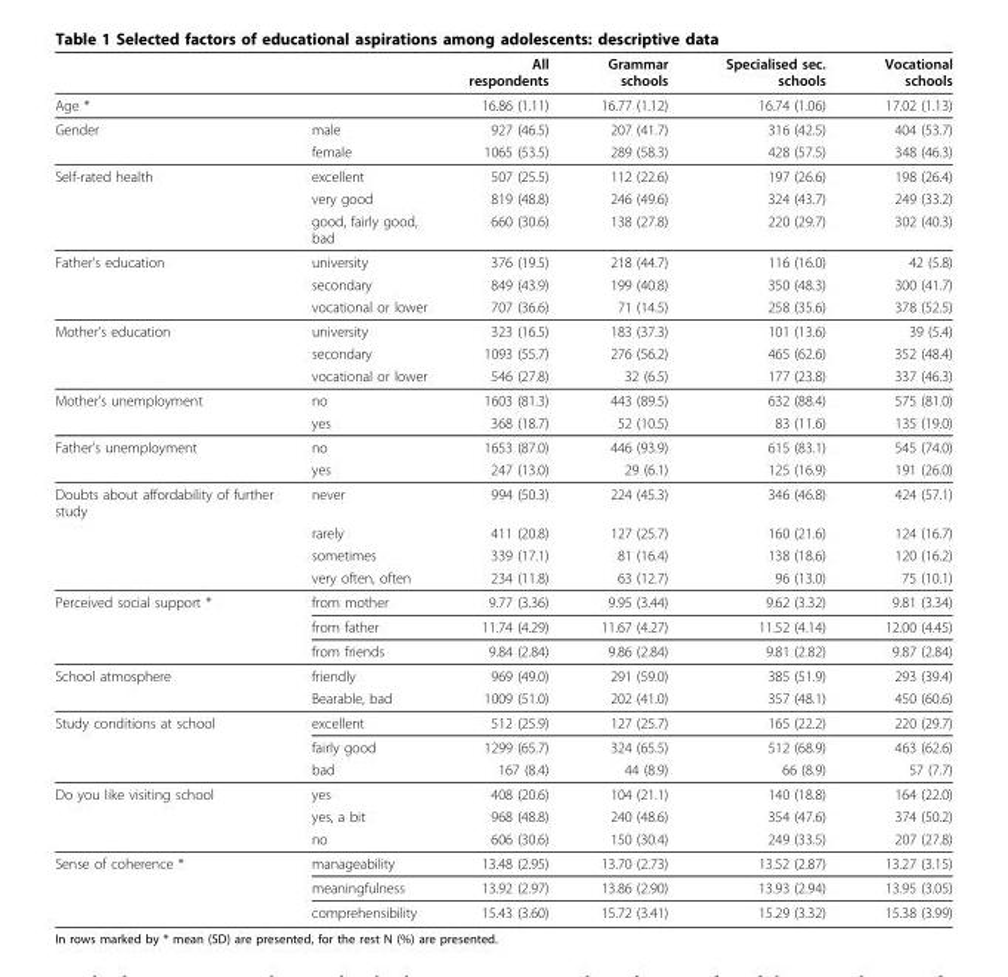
<table><thead><tr><td></td><td></td><td>All respondents</td><td>Grammar schools</td><td>Specialised sec. schools</td><td>Vocational schools</td></tr></thead><tbody><tr><td>Age *</td><td></td><td>16.86 (1.11)</td><td>16.77 (1.12)</td><td>16.74 (1.06)</td><td>17.02 (1.13)</td></tr><tr><td rowspan="2">Gender</td><td>male</td><td>927 (46.5)</td><td>207 (41.7)</td><td>316 (42.5)</td><td>404 (53.7)</td></tr><tr><td>female</td><td>1065 (53.5)</td><td>289 (58.3)</td><td>428 (57.5)</td><td>348 (46.3)</td></tr><tr><td rowspan="3">Self-rated health</td><td>excellent</td><td>507 (25.5)</td><td>112 (22.6)</td><td>197 (26.6)</td><td>198 (26.4)</td></tr><tr><td>very good</td><td>819 (48.8)</td><td>246 (49.6)</td><td>324 (43.7)</td><td>249 (33.2)</td></tr><tr><td>good, fairly good, bad</td><td>660 (30.6)</td><td>138 (27.8)</td><td>220 (29.7)</td><td>302 (40.3)</td></tr><tr><td rowspan="3">Father’s education</td><td>university</td><td>376 (19.5)</td><td>218 (44.7)</td><td>116 (16.0)</td><td>42 (5.8)</td></tr><tr><td>secondary</td><td>849 (43.9)</td><td>199 (40.8)</td><td>350 (48.3)</td><td>300 (41.7)</td></tr><tr><td>vocational or lower</td><td>707 (36.6)</td><td>71 (14.5)</td><td>258 (35.6)</td><td>378 (52.5)</td></tr><tr><td rowspan="3">Mother’s education</td><td>university</td><td>323 (16.5)</td><td>183 (37.3)</td><td>101 (13.6)</td><td>39 (5.4)</td></tr><tr><td>secondary</td><td>1093 (55.7)</td><td>276 (56.2)</td><td>465 (62.6)</td><td>352 (48.4)</td></tr><tr><td>vocational or lower</td><td>546 (27.8)</td><td>32 (6.5)</td><td>177 (23.8)</td><td>337 (46.3)</td></tr><tr><td rowspan="2">Mother’s unemployment</td><td>no</td><td>1603 (81.3)</td><td>443 (89.5)</td><td>632 (88.4)</td><td>575 (81.0)</td></tr><tr><td>yes</td><td>368 (18.7)</td><td>52 (10.5)</td><td>83 (11.6)</td><td>135 (19.0)</td></tr><tr><td rowspan="2">Father’s unemployment</td><td>no</td><td>1653 (87.0)</td><td>446 (93.9)</td><td>615 (83.1)</td><td>545 (74.0)</td></tr><tr><td>yes</td><td>247 (13.0)</td><td>29 (6.1)</td><td>125 (16.9)</td><td>191 (26.0)</td></tr><tr><td rowspan="4">Doubts about affordability of further study</td><td>never</td><td>994 (50.3)</td><td>224 (45.3)</td><td>346 (46.8)</td><td>424 (57.1)</td></tr><tr><td>rarely</td><td>411 (20.8)</td><td>127 (25.7)</td><td>160 (21.6)</td><td>124 (16.7)</td></tr><tr><td>sometimes</td><td>339 (17.1)</td><td>81 (16.4)</td><td>138 (18.6)</td><td>120 (16.2)</td></tr><tr><td>very often, often</td><td>234 (11.8)</td><td>63 (12.7)</td><td>96 (13.0)</td><td>75 (10.1)</td></tr><tr><td rowspan="3">Perceived social support *</td><td>from mother</td><td>9.77 (3.36)</td><td>9.95 (3.44)</td><td>9.62 (3.32)</td><td>9.81 (3.34)</td></tr><tr><td>from father</td><td>11.74 (4.29)</td><td>11.67 (4.27)</td><td>11.52 (4.14)</td><td>12.00 (4.45)</td></tr><tr><td>from friends</td><td>9.84 (2.84)</td><td>9.86 (2.84)</td><td>9.81 (2.82)</td><td>9.87 (2.84)</td></tr><tr><td rowspan="2">School atmosphere</td><td>friendly</td><td>969 (49.0)</td><td>291 (59.0)</td><td>385 (51.9)</td><td>293 (39.4)</td></tr><tr><td>Bearable, bad</td><td>1009 (51.0)</td><td>202 (41.0)</td><td>357 (48.1)</td><td>450 (60.6)</td></tr><tr><td rowspan="3">Study conditions at school</td><td>excellent</td><td>512 (25.9)</td><td>127 (25.7)</td><td>165 (22.2)</td><td>220 (29.7)</td></tr><tr><td>fairly good</td><td>1299 (65.7)</td><td>324 (65.5)</td><td>512 (68.9)</td><td>463 (62.6)</td></tr><tr><td>bad</td><td>167 (8.4)</td><td>44 (8.9)</td><td>66 (8.9)</td><td>57 (7.7)</td></tr><tr><td rowspan="3">Do you like visiting school</td><td>yes</td><td>408 (20.6)</td><td>104 (21.1)</td><td>140 (18.8)</td><td>164 (22.0)</td></tr><tr><td>yes, a bit</td><td>968 (48.8)</td><td>240 (48.6)</td><td>354 (47.6)</td><td>374 (50.2)</td></tr><tr><td>no</td><td>606 (30.6)</td><td>150 (30.4)</td><td>249 (33.5)</td><td>207 (27.8)</td></tr><tr><td rowspan="3">Sense of coherence *</td><td>manageability</td><td>13.48 (2.95)</td><td>13.70 (2.73)</td><td>13.52 (2.87)</td><td>13.27 (3.15)</td></tr><tr><td>meaningfulness</td><td>13.92 (2.97)</td><td>13.86 (2.90)</td><td>13.93 (2.94)</td><td>13.95 (3.05)</td></tr><tr><td>comprehensibility</td><td>15.43 (3.60)</td><td>15.72 (3.41)</td><td>15.29 (3.32)</td><td>15.38 (3.99)</td></tr></tbody></table>